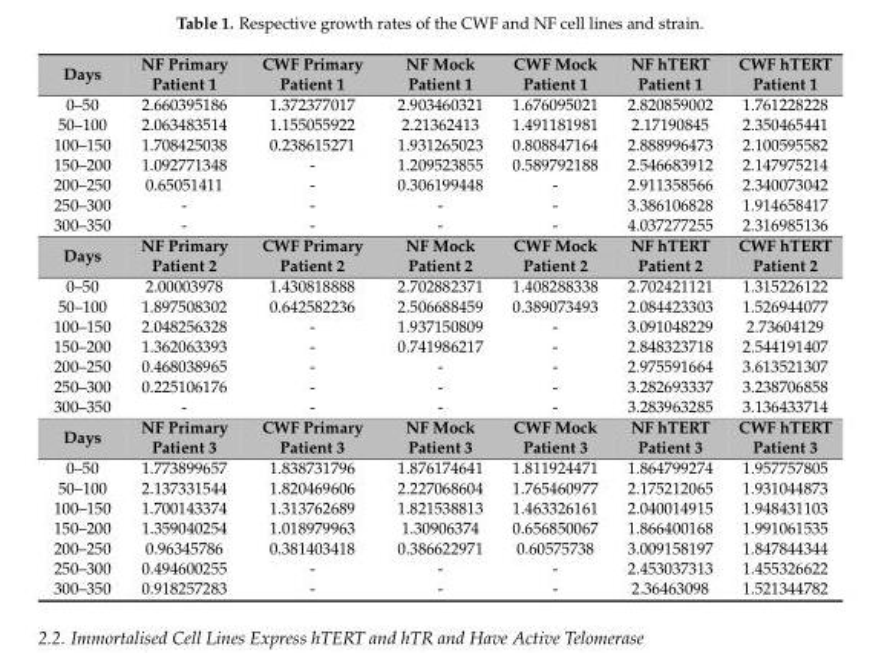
<table><tbody><tr><td>Days</td><td>NF Primary Patient 1</td><td>CWF Primary Patient 1</td><td>NF Mock Patient 1</td><td>CWF Mock Patient 1</td><td>NF hTERT Patient 1</td><td>CWF hTERT Patient 1</td></tr><tr><td>0–50</td><td>2.660395186</td><td>1.372377017</td><td>2.903460321</td><td>1.676095021</td><td>2.820859002</td><td>1.761228228</td></tr><tr><td>50–100</td><td>2.063483514</td><td>1.155055922</td><td>2.21362413</td><td>1.491181981</td><td>2.17190845</td><td>2.350465441</td></tr><tr><td>100–150</td><td>1.708425038</td><td>0.238615271</td><td>1.931265023</td><td>0.808847164</td><td>2.888996473</td><td>2.100595582</td></tr><tr><td>150–200</td><td>1.092771348</td><td>-</td><td>1.209523855</td><td>0.589792188</td><td>2.546683912</td><td>2.147975214</td></tr><tr><td>200–250</td><td>0.65051411</td><td>-</td><td>0.306199448</td><td>-</td><td>2.911358566</td><td>2.340073042</td></tr><tr><td>250–300</td><td>-</td><td>-</td><td>-</td><td>-</td><td>3.386106828</td><td>1.914658417</td></tr><tr><td>300–350</td><td>-</td><td>-</td><td>-</td><td>-</td><td>4.037277255</td><td>2.316985136</td></tr><tr><td>Days</td><td>NF Primary Patient 2</td><td>CWF Primary Patient 2</td><td>NF Mock Patient 2</td><td>CWF Mock Patient 2</td><td>NF hTERT Patient 2</td><td>CWF hTERT Patient 2</td></tr><tr><td>0–50</td><td>2.00003978</td><td>1.430818888</td><td>2.702882371</td><td>1.408288338</td><td>2.702421121</td><td>1.315226122</td></tr><tr><td>50–100</td><td>1.897508302</td><td>0.642582236</td><td>2.506688459</td><td>0.389073493</td><td>2.084423303</td><td>1.526944077</td></tr><tr><td>100–150</td><td>2.048256328</td><td>-</td><td>1.937150809</td><td>-</td><td>3.091048229</td><td>2.73604129</td></tr><tr><td>150–200</td><td>1.362063393</td><td>-</td><td>0.741986217</td><td>-</td><td>2.848323718</td><td>2.544191407</td></tr><tr><td>200–250</td><td>0.468038965</td><td>-</td><td>-</td><td>-</td><td>2.975591664</td><td>3.613521307</td></tr><tr><td>250–300</td><td>0.225106176</td><td>-</td><td>-</td><td>-</td><td>3.282693337</td><td>3.238706858</td></tr><tr><td>300–350</td><td>-</td><td>-</td><td>-</td><td>-</td><td>3.283963285</td><td>3.136433714</td></tr><tr><td>Days</td><td>NF Primary Patient 3</td><td>CWF Primary Patient 3</td><td>NF Mock Patient 3</td><td>CWF Mock Patient 3</td><td>NF hTERT Patient 3</td><td>CWF hTERT Patient 3</td></tr><tr><td>0–50</td><td>1.773899657</td><td>1.838731796</td><td>1.876174641</td><td>1.811924471</td><td>1.864799274</td><td>1.957757805</td></tr><tr><td>50–100</td><td>2.137331544</td><td>1.820469606</td><td>2.227068604</td><td>1.765460977</td><td>2.175212065</td><td>1.931044873</td></tr><tr><td>100–150</td><td>1.700143374</td><td>1.313762689</td><td>1.821538813</td><td>1.463326161</td><td>2.040014915</td><td>1.948431103</td></tr><tr><td>150–200</td><td>1.359040254</td><td>1.018979963</td><td>1.30906374</td><td>0.656850067</td><td>1.866400168</td><td>1.991061535</td></tr><tr><td>200–250</td><td>0.96345786</td><td>0.381403418</td><td>0.386622971</td><td>0.60575738</td><td>3.009158197</td><td>1.847844344</td></tr><tr><td>250–300</td><td>0.494600255</td><td>-</td><td>-</td><td>-</td><td>2.453037313</td><td>1.455326622</td></tr><tr><td>300–350</td><td>0.918257283</td><td>-</td><td>-</td><td>-</td><td>2.36463098</td><td>1.521344782</td></tr></tbody></table>